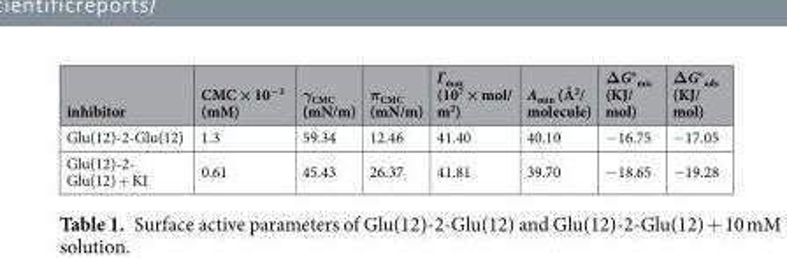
<table><thead><tr><td>inhibitor</td><td>CMC × 10<sup>−3</sup> (mM)</td><td>γ<sub>CMC</sub> (mN/m)</td><td>π<sub>CMC</sub> (mN/m)</td><td>Г<sub>max</sub> (10<sup>7</sup> × mol/ m<sup>2</sup>)</td><td>A<sub>min</sub> (Å<sup>2</sup>/ molecule)</td><td>ΔG°<sub>mic</sub> (KJ/ mol)</td><td>ΔG°<sub>ads</sub> (KJ/ mol)</td></tr></thead><tbody><tr><td>Glu(12)2Glu(12)</td><td>1.3</td><td>59.34</td><td>12.46</td><td>41.40</td><td>40.10</td><td>−16.75</td><td>−17.05</td></tr><tr><td>Glu(12)2 Glu(12) + KI</td><td>0.61</td><td>45.43</td><td>26.37</td><td>41.81</td><td>39.70</td><td>−18.65</td><td>−19.28</td></tr></tbody></table>